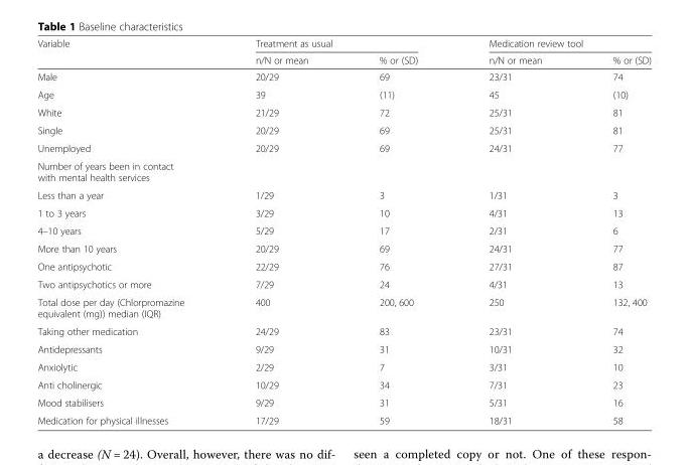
<table><thead><tr><td rowspan="2">Variable</td><td colspan="2">Treatment as usual</td><td colspan="2">Medication review tool</td></tr><tr><td>n/N or mean</td><td>% or (SD)</td><td>n/N or mean</td><td>% or (SD)</td></tr></thead><tbody><tr><td>Male</td><td>20/29</td><td>69</td><td>23/31</td><td>74</td></tr><tr><td>Age</td><td>39</td><td>(11)</td><td>45</td><td>(10)</td></tr><tr><td>White</td><td>21/29</td><td>72</td><td>25/31</td><td>81</td></tr><tr><td>Single</td><td>20/29</td><td>69</td><td>25/31</td><td>81</td></tr><tr><td>Unemployed</td><td>20/29</td><td>69</td><td>24/31</td><td>77</td></tr><tr><td colspan="5">Number of years been in contact with mental health services</td></tr><tr><td>Less than a year</td><td>1/29</td><td>3</td><td>1/31</td><td>3</td></tr><tr><td>1 to 3 years</td><td>3/29</td><td>10</td><td>4/31</td><td>13</td></tr><tr><td>4–10 years</td><td>5/29</td><td>17</td><td>2/31</td><td>6</td></tr><tr><td>More than 10 years</td><td>20/29</td><td>69</td><td>24/31</td><td>77</td></tr><tr><td>One antipsychotic</td><td>22/29</td><td>76</td><td>27/31</td><td>87</td></tr><tr><td>Two antipsychotics or more</td><td>7/29</td><td>24</td><td>4/31</td><td>13</td></tr><tr><td>Total dose per day (Chlorpromazine equivalent (mg)) median (IQR)</td><td>400</td><td>200, 600</td><td>250</td><td>132, 400</td></tr><tr><td>Taking other medication</td><td>24/29</td><td>83</td><td>23/31</td><td>74</td></tr><tr><td>Antidepressants</td><td>9/29</td><td>31</td><td>10/31</td><td>32</td></tr><tr><td>Anxiolytic</td><td>2/29</td><td>7</td><td>3/31</td><td>10</td></tr><tr><td>Anti cholinergic</td><td>10/29</td><td>34</td><td>7/31</td><td>23</td></tr><tr><td>Mood stabilisers</td><td>9/29</td><td>31</td><td>5/31</td><td>16</td></tr><tr><td>Medication for physical illnesses</td><td>17/29</td><td>59</td><td>18/31</td><td>58</td></tr></tbody></table>